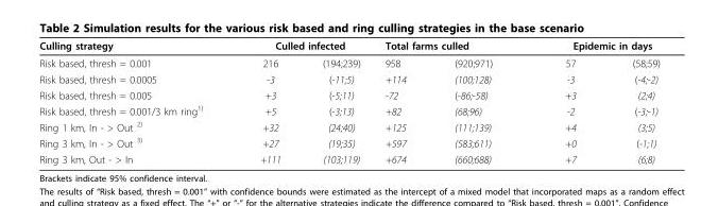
<table><thead><tr><td rowspan="2">Culling strategy Risk based, thresh = 0.001</td><td colspan="2">Culled infected</td><td colspan="2">Total farms culled</td><td colspan="2">Epidemic in days</td></tr><tr><td>216</td><td>(194;239)</td><td>958</td><td>(920;971)</td><td>57</td><td>(58;59)</td></tr></thead><tbody><tr><td>Risk based, thresh = 0.0005</td><td>-3</td><td>(-11;5)</td><td>+114</td><td>(100;128)</td><td>-3</td><td>(-4;-2)</td></tr><tr><td>Risk based, thresh = 0.005</td><td>+3</td><td>(-5;11)</td><td>-72</td><td>(-86;-58)</td><td>+3</td><td>(2;4)</td></tr><tr><td>Risk based, thresh = 0.001/3 km ring<sup>1)</sup></td><td>+5</td><td>(-3;13)</td><td>+82</td><td>(68;96)</td><td>-2</td><td>(-3;-1)</td></tr><tr><td>Ring 1 km, In - &gt; Out <sup>2)</sup></td><td>+32</td><td>(24;40)</td><td>+125</td><td>(111;139)</td><td>+4</td><td>(3;5)</td></tr><tr><td>Ring 3 km, In - &gt; Out <sup>3)</sup></td><td>+27</td><td>(19;35)</td><td>+597</td><td>(583;611)</td><td>+0</td><td>(-1;1)</td></tr><tr><td>Ring 3 km, Out - &gt; In</td><td>+111</td><td>(103;119)</td><td>+674</td><td>(660;688)</td><td>+7</td><td>(6;8)</td></tr></tbody></table>